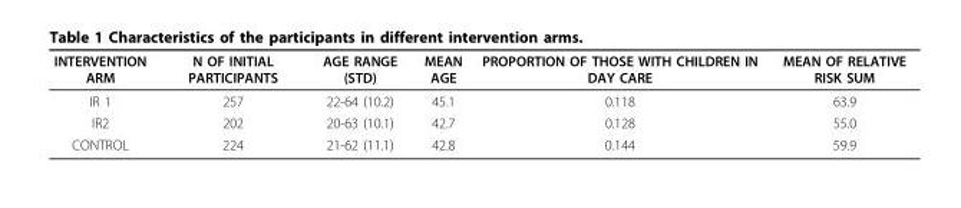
<table><thead><tr><td>INTERVENTION ARM</td><td>N OF INITIAL PARTICIPANTS</td><td>AGE RANGE (STD)</td><td>MEAN AGE</td><td>PROPORTION OF THOSE WITH CHILDREN IN DAY CARE</td><td>MEAN OF RELATIVE RISK SUM</td></tr></thead><tbody><tr><td>IR 1</td><td>257</td><td>22-64 (10.2)</td><td>45.1</td><td>0.118</td><td>63.9</td></tr><tr><td>IR2</td><td>202</td><td>20-63 (10.1)</td><td>42.7</td><td>0.128</td><td>55.0</td></tr><tr><td>CONTROL</td><td>224</td><td>21-62 (11.1)</td><td>42.8</td><td>0.144</td><td>59.9</td></tr></tbody></table>